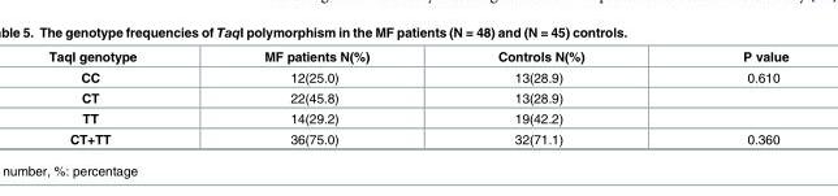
<table><thead><tr><td>TaqI genotype</td><td>MF patients N(%)</td><td>Controls N(%)</td><td>P value</td></tr></thead><tbody><tr><td>CC</td><td>12(25.0)</td><td>13(28.9)</td><td>0.610</td></tr><tr><td>CT</td><td>22(45.8)</td><td>13(28.9)</td><td></td></tr><tr><td>TT</td><td>14(29.2)</td><td>19(42.2)</td><td></td></tr><tr><td>CT+TT</td><td>36(75.0)</td><td>32(71.1)</td><td>0.360</td></tr></tbody></table>